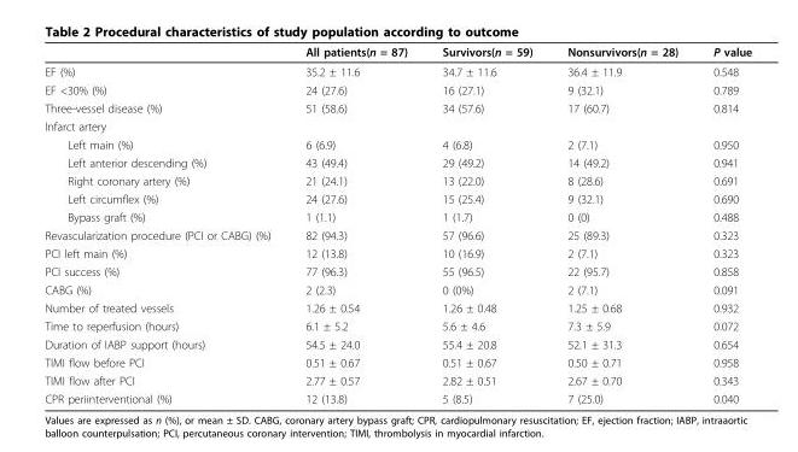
<table><thead><tr><td></td><td>All patients(n = 87)</td><td>Survivors(n = 59)</td><td>Nonsurvivors(n = 28)</td><td>P value</td></tr></thead><tbody><tr><td>EF (%)</td><td>35.2 ± 11.6</td><td>34.7 ± 11.6</td><td>36.4 ± 11.9</td><td>0.548</td></tr><tr><td>EF &lt;30% (%)</td><td>24 (27.6)</td><td>16 (27.1)</td><td>9 (32.1)</td><td>0.789</td></tr><tr><td>Three-vessel disease (%)</td><td>51 (58.6)</td><td>34 (57.6)</td><td>17 (60.7)</td><td>0.814</td></tr><tr><td colspan="5">Infarct artery</td></tr><tr><td>Left main (%)</td><td>6 (6.9)</td><td>4 (6.8)</td><td>2 (7.1)</td><td>0.950</td></tr><tr><td>Left anterior descending (%)</td><td>43 (49.4)</td><td>29 (49.2)</td><td>14 (49.2)</td><td>0.941</td></tr><tr><td>Right coronary artery (%)</td><td>21 (24.1)</td><td>13 (22.0)</td><td>8 (28.6)</td><td>0.691</td></tr><tr><td>Left circumflex (%)</td><td>24 (27.6)</td><td>15 (25.4)</td><td>9 (32.1)</td><td>0.690</td></tr><tr><td>Bypass graft (%)</td><td>1 (1.1)</td><td>1 (1.7)</td><td>0 (0)</td><td>0.488</td></tr><tr><td>Revascularization procedure (PCI or CABG) (%)</td><td>82 (94.3)</td><td>57 (96.6)</td><td>25 (89.3)</td><td>0.323</td></tr><tr><td>PCI left main (%)</td><td>12 (13.8)</td><td>10 (16.9)</td><td>2 (7.1)</td><td>0.323</td></tr><tr><td>PCI success (%)</td><td>77 (96.3)</td><td>55 (96.5)</td><td>22 (95.7)</td><td>0.858</td></tr><tr><td>CABG (%)</td><td>2 (2.3)</td><td>0 (0%)</td><td>2 (7.1)</td><td>0.091</td></tr><tr><td>Number of treated vessels</td><td>1.26 ± 0.54</td><td>1.26 ± 0.48</td><td>1.25 ± 0.68</td><td>0.932</td></tr><tr><td>Time to reperfusion (hours)</td><td>6.1 ± 5.2</td><td>5.6 ± 4.6</td><td>7.3 ± 5.9</td><td>0.072</td></tr><tr><td>Duration of IABP support (hours)</td><td>54.5 ± 24.0</td><td>55.4 ± 20.8</td><td>52.1 ± 31.3</td><td>0.654</td></tr><tr><td>TIMI flow before PCI</td><td>0.51 ± 0.67</td><td>0.51 ± 0.67</td><td>0.50 ± 0.71</td><td>0.958</td></tr><tr><td>TIMI flow after PCI</td><td>2.77 ± 0.57</td><td>2.82 ± 0.51</td><td>2.67 ± 0.70</td><td>0.343</td></tr><tr><td>CPR periinterventional (%)</td><td>12 (13.8)</td><td>5 (8.5)</td><td>7 (25.0)</td><td>0.040</td></tr></tbody></table>